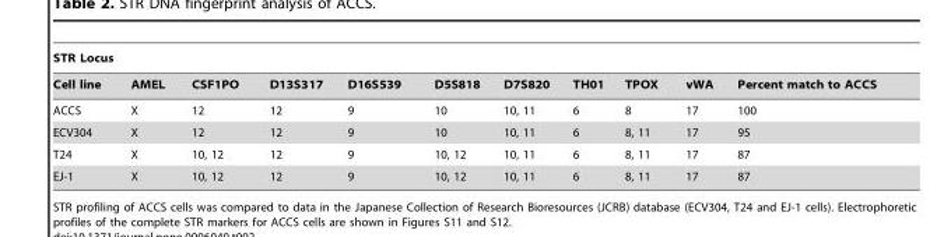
<table><thead><tr><td colspan="11">STR Locus</td></tr><tr><td>Cell line</td><td>AMEL</td><td>CSF1PO</td><td>D13S317</td><td>D16S539</td><td>D5S818</td><td>D7S820</td><td>TH01</td><td>TPOX</td><td>vWA</td><td>Percent match to ACCS</td></tr></thead><tbody><tr><td>ACCS</td><td>X</td><td>12</td><td>12</td><td>9</td><td>10</td><td>10, 11</td><td>6</td><td>8</td><td>17</td><td>100</td></tr><tr><td>ECV304</td><td>X</td><td>12</td><td>12</td><td>9</td><td>10</td><td>10, 11</td><td>6</td><td>8, 11</td><td>17</td><td>95</td></tr><tr><td>T24</td><td>X</td><td>10, 12</td><td>12</td><td>9</td><td>10, 12</td><td>10, 11</td><td>6</td><td>8, 11</td><td>17</td><td>87</td></tr><tr><td>EJ-1</td><td>X</td><td>10, 12</td><td>12</td><td>9</td><td>10, 12</td><td>10, 11</td><td>6</td><td>8, 11</td><td>17</td><td>87</td></tr></tbody></table>